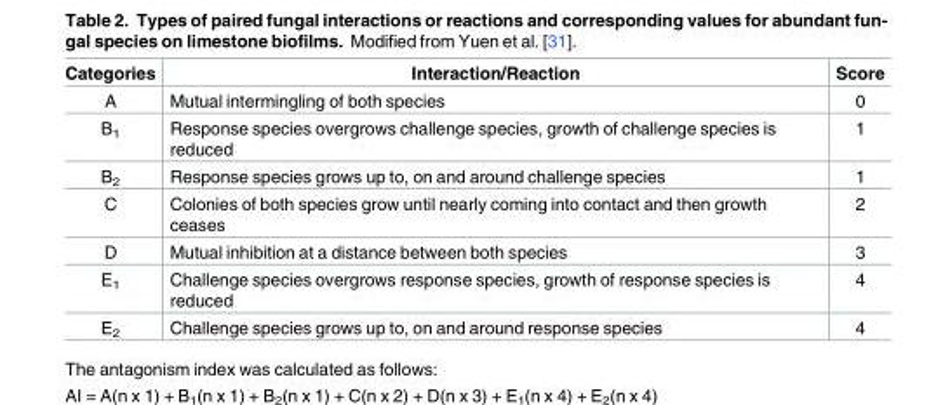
<table><thead><tr><td>Categories</td><td>Interaction/Reaction</td><td>Score</td></tr></thead><tbody><tr><td>A</td><td>Mutual intermingling of both species</td><td>0</td></tr><tr><td>B<sub>1</sub></td><td>Response species overgrows challenge species, growth of challenge species is reduced</td><td>1</td></tr><tr><td>B<sub>2</sub></td><td>Response species grows up to, on and around challenge species</td><td>1</td></tr><tr><td>C</td><td>Colonies of both species grow until nearly coming into contact and then growth ceases</td><td>2</td></tr><tr><td>D</td><td>Mutual inhibition at a distance between both species</td><td>3</td></tr><tr><td>E<sub>1</sub></td><td>Challenge species overgrows response species, growth of response species is reduced</td><td>4</td></tr><tr><td>E<sub>2</sub></td><td>Challenge species grows up to, on and around response species</td><td>4</td></tr></tbody></table>